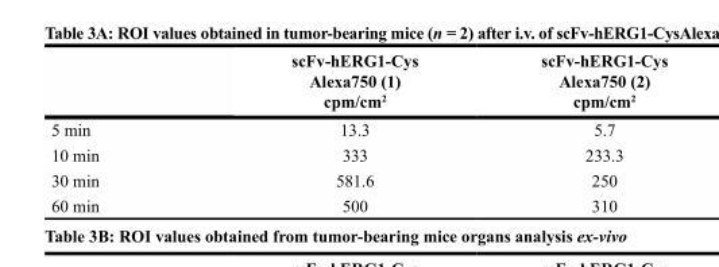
<table><thead><tr><td></td><td>scFv-hERG1-Cys Alexa750 (1) cpm/cm<sup>2</sup></td><td>scFv-hERG1-Cys Alexa750 (2) cpm/cm<sup>2</sup></td></tr></thead><tbody><tr><td>5 min</td><td>13.3</td><td>5.7</td></tr><tr><td>10 min</td><td>333</td><td>233.3</td></tr><tr><td>30 min</td><td>581.6</td><td>250</td></tr><tr><td>60 min</td><td>500</td><td>310</td></tr></tbody></table>